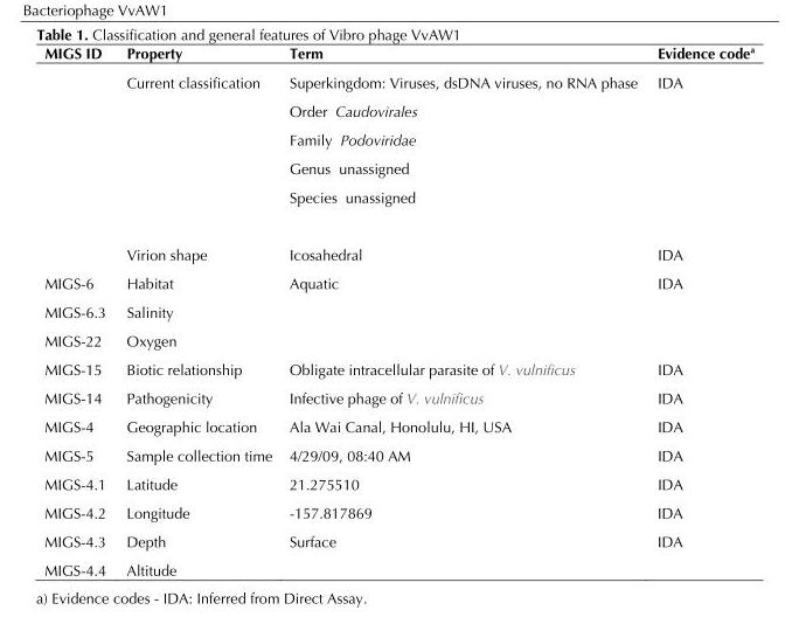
<table><thead><tr><td>MIGS ID</td><td>Property</td><td>Term</td><td>Evidence code<sup>a</sup></td></tr></thead><tbody><tr><td></td><td>Current classification</td><td>Superkingdom: Viruses, dsDNA viruses, no RNA phase</td><td>IDA</td></tr><tr><td></td><td></td><td>Order Caudovirales</td><td></td></tr><tr><td></td><td></td><td>Family Podoviridae</td><td></td></tr><tr><td></td><td></td><td>Genus unassigned</td><td></td></tr><tr><td></td><td></td><td>Species unassigned</td><td></td></tr><tr><td></td><td>Virion shape</td><td>Icosahedral</td><td>IDA</td></tr><tr><td>MIGS-6</td><td>Habitat</td><td>Aquatic</td><td>IDA</td></tr><tr><td>MIGS-6.3</td><td>Salinity</td><td></td><td></td></tr><tr><td>MIGS-22</td><td>Oxygen</td><td></td><td></td></tr><tr><td>MIGS-15</td><td>Biotic relationship</td><td>Obligate intracellular parasite of V. vulnificus</td><td>IDA</td></tr><tr><td>MIGS-14</td><td>Pathogenicity</td><td>Infective phage of V. vulnificus</td><td>IDA</td></tr><tr><td>MIGS-4</td><td>Geographic location</td><td>Ala Wai Canal, Honolulu, HI, USA</td><td>IDA</td></tr><tr><td>MIGS-5</td><td>Sample collection time</td><td>4/29/09, 08:40 AM</td><td>IDA</td></tr><tr><td>MIGS-4.1</td><td>Latitude</td><td>21.275510</td><td>IDA</td></tr><tr><td>MIGS-4.2</td><td>Longitude</td><td>-157.817869</td><td>IDA</td></tr><tr><td>MIGS-4.3</td><td>Depth</td><td>Surface</td><td>IDA</td></tr><tr><td>MIGS-4.4</td><td>Altitude</td><td></td><td></td></tr></tbody></table>